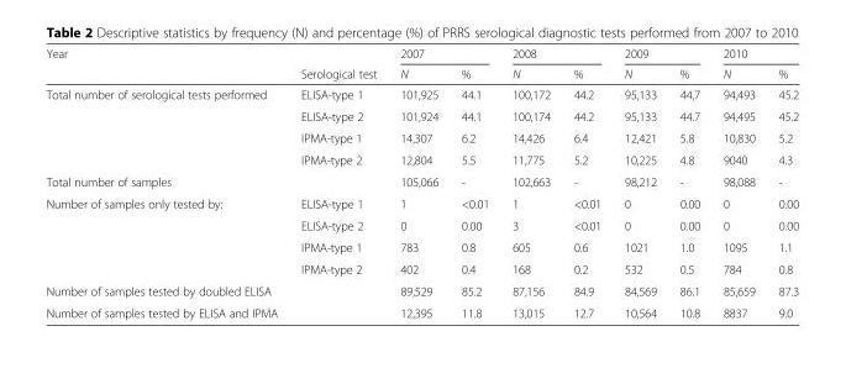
<table><thead><tr><td rowspan="2">Year</td><td rowspan="2">Serological test</td><td colspan="2">2007</td><td colspan="2">2008</td><td colspan="2">2009</td><td colspan="2">2010</td></tr><tr><td>N</td><td>%</td><td>N</td><td>%</td><td>N</td><td>%</td><td>N</td><td>%</td></tr></thead><tbody><tr><td rowspan="4">Total number of serological tests performed</td><td>ELISA-type 1</td><td>101,925</td><td>44.1</td><td>100,172</td><td>44.2</td><td>95,133</td><td>44,7</td><td>94,493</td><td>45.2</td></tr><tr><td>ELISA-type 2</td><td>101,924</td><td>44.1</td><td>100,174</td><td>44.2</td><td>95,133</td><td>44.7</td><td>94,495</td><td>45.2</td></tr><tr><td>IPMA-type 1</td><td>14,307</td><td>6.2</td><td>14,426</td><td>6.4</td><td>12,421</td><td>5.8</td><td>10,830</td><td>5.2</td></tr><tr><td>IPMA-type 2</td><td>12,804</td><td>5.5</td><td>11,775</td><td>5.2</td><td>10,225</td><td>4.8</td><td>9040</td><td>4.3</td></tr><tr><td>Total number of samples</td><td></td><td>105,066</td><td>-</td><td>102,663</td><td>-</td><td>98,212</td><td>-</td><td>98,088</td><td>-</td></tr><tr><td rowspan="4">Number of samples only tested by:</td><td>ELISA-type 1</td><td>1</td><td>&lt;0.01</td><td>1</td><td>&lt;0.01</td><td>0</td><td>0.00</td><td>0</td><td>0.00</td></tr><tr><td>ELISA-type 2</td><td>0</td><td>0.00</td><td>3</td><td>&lt;0.01</td><td>0</td><td>0.00</td><td>0</td><td>0.00</td></tr><tr><td>IPMA-type 1</td><td>783</td><td>0.8</td><td>605</td><td>0.6</td><td>1021</td><td>1.0</td><td>1095</td><td>1.1</td></tr><tr><td>IPMA-type 2</td><td>402</td><td>0.4</td><td>168</td><td>0.2</td><td>532</td><td>0.5</td><td>784</td><td>0.8</td></tr><tr><td>Number of samples tested by doubled ELISA</td><td></td><td>89,529</td><td>85.2</td><td>87,156</td><td>84.9</td><td>84,569</td><td>86.1</td><td>85,659</td><td>87.3</td></tr><tr><td>Number of samples tested by ELISA and IPMA</td><td></td><td>12,395</td><td>11.8</td><td>13,015</td><td>12.7</td><td>10,564</td><td>10.8</td><td>8837</td><td>9.0</td></tr></tbody></table>